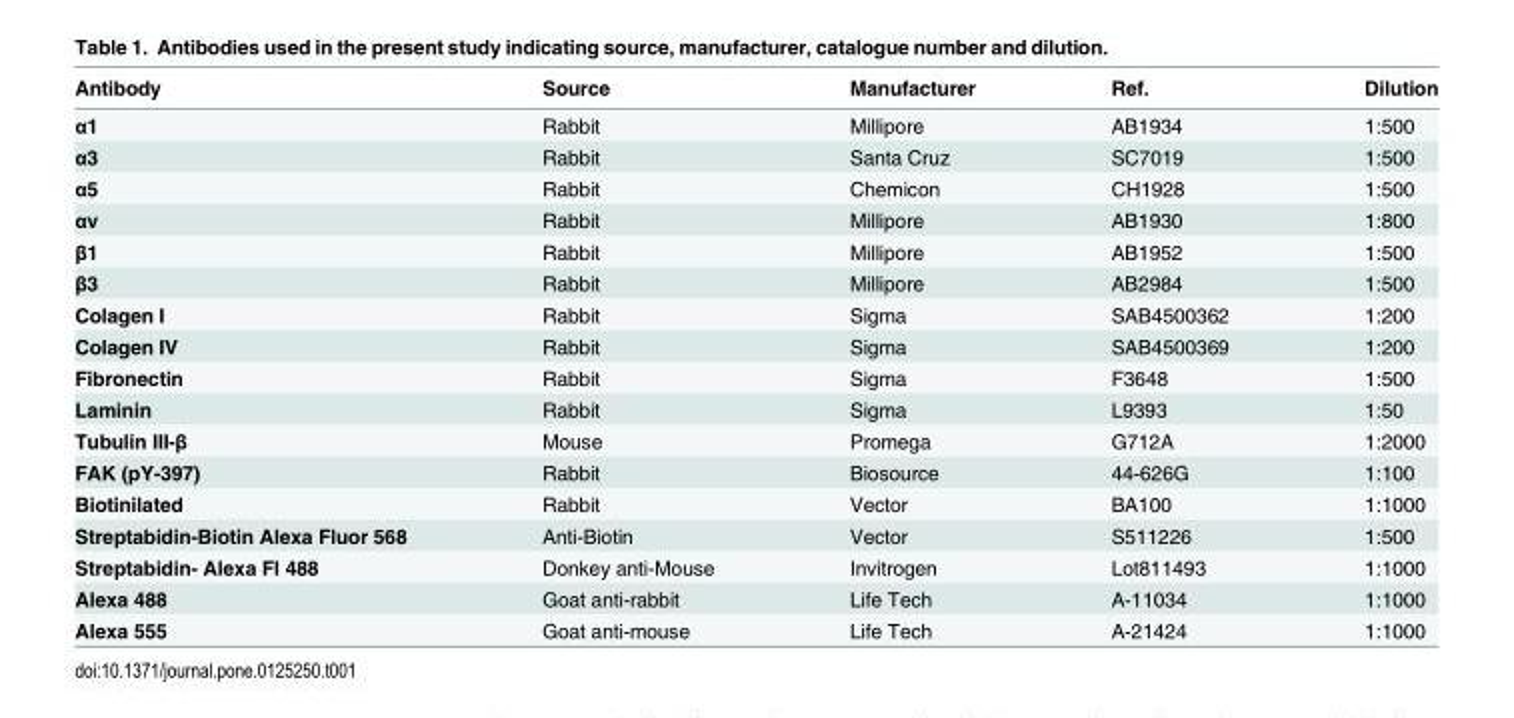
<table><thead><tr><td>Antibody</td><td>Source</td><td>Manufacturer</td><td>Ref.</td><td>Dilution</td></tr></thead><tbody><tr><td>α1</td><td>Rabbit</td><td>Millipore</td><td>AB1934</td><td>1:500</td></tr><tr><td>α3</td><td>Rabbit</td><td>Santa Cruz</td><td>SC7019</td><td>1:500</td></tr><tr><td>α5</td><td>Rabbit</td><td>Chemicon</td><td>CH1928</td><td>1:500</td></tr><tr><td>αv</td><td>Rabbit</td><td>Millipore</td><td>AB1930</td><td>1:800</td></tr><tr><td>β1</td><td>Rabbit</td><td>Millipore</td><td>AB1952</td><td>1:500</td></tr><tr><td>β3</td><td>Rabbit</td><td>Millipore</td><td>AB2984</td><td>1:500</td></tr><tr><td>Colagen I</td><td>Rabbit</td><td>Sigma</td><td>SAB4500362</td><td>1:200</td></tr><tr><td>Colagen IV</td><td>Rabbit</td><td>Sigma</td><td>SAB4500369</td><td>1:200</td></tr><tr><td>Fibronectin</td><td>Rabbit</td><td>Sigma</td><td>F3648</td><td>1:500</td></tr><tr><td>Laminin</td><td>Rabbit</td><td>Sigma</td><td>L9393</td><td>1:50</td></tr><tr><td>Tubulin III-β</td><td>Mouse</td><td>Promega</td><td>G712A</td><td>1:2000</td></tr><tr><td>FAK (pY-397)</td><td>Rabbit</td><td>Biosource</td><td>44-626G</td><td>1:100</td></tr><tr><td>Biotinilated</td><td>Rabbit</td><td>Vector</td><td>BA100</td><td>1:1000</td></tr><tr><td>Streptabidin-Biotin Alexa Fluor 568</td><td>Anti-Biotin</td><td>Vector</td><td>S511226</td><td>1:500</td></tr><tr><td>Streptabidin- Alexa Fl 488</td><td>Donkey anti-Mouse</td><td>Invitrogen</td><td>Lot811493</td><td>1:1000</td></tr><tr><td>Alexa 488</td><td>Goat anti-rabbit</td><td>Life Tech</td><td>A-11034</td><td>1:1000</td></tr><tr><td>Alexa 555</td><td>Goat anti-mouse</td><td>Life Tech</td><td>A-21424</td><td>1:1000</td></tr></tbody></table>